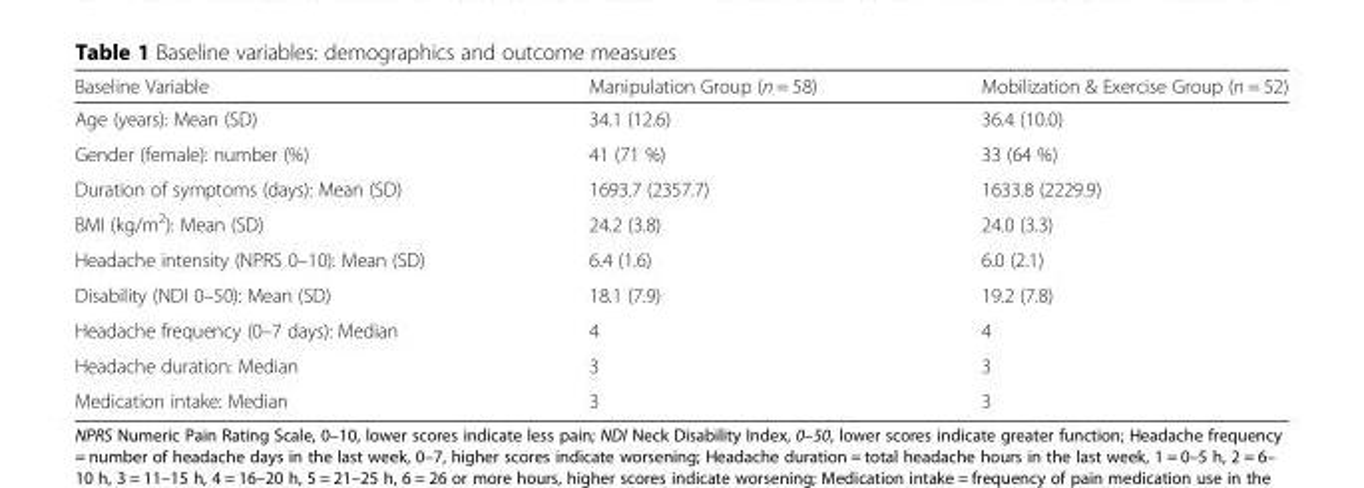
<table><thead><tr><td>Baseline Variable</td><td>Manipulation Group (n = 58)</td><td>Mobilization &amp; Exercise Group (n = 52)</td></tr></thead><tbody><tr><td>Age (years): Mean (SD)</td><td>34.1 (12.6)</td><td>36.4 (10.0)</td></tr><tr><td>Gender (female): number (%)</td><td>41 (71 %)</td><td>33 (64 %)</td></tr><tr><td>Duration of symptoms (days): Mean (SD)</td><td>1693.7 (2357.7)</td><td>1633.8 (2229.9)</td></tr><tr><td>BMI (kg/m<sup>2</sup>): Mean (SD)</td><td>24.2 (3.8)</td><td>24.0 (3.3)</td></tr><tr><td>Headache intensity (NPRS 0–10): Mean (SD)</td><td>6.4 (1.6)</td><td>6.0 (2.1)</td></tr><tr><td>Disability (NDI 0–50): Mean (SD)</td><td>18.1 (7.9)</td><td>19.2 (7.8)</td></tr><tr><td>Headache frequency (0–7 days): Median</td><td>4</td><td>4</td></tr><tr><td>Headache duration: Median</td><td>3</td><td>3</td></tr><tr><td>Medication intake: Median</td><td>3</td><td>3</td></tr></tbody></table>